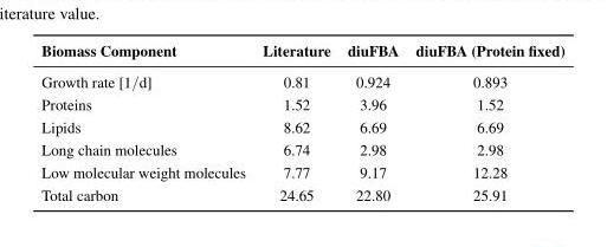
<table><thead><tr><td>Biomass Component</td><td>Literature</td><td>diuFBA</td><td>diuFBA (Protein fixed)</td></tr></thead><tbody><tr><td>Growth rate [1/d]</td><td>0.81</td><td>0.924</td><td>0.893</td></tr><tr><td>Proteins</td><td>1.52</td><td>3.96</td><td>1.52</td></tr><tr><td>Lipids</td><td>8.62</td><td>6.69</td><td>6.69</td></tr><tr><td>Long chain molecules</td><td>6.74</td><td>2.98</td><td>2.98</td></tr><tr><td>Low molecular weight molecules</td><td>7.77</td><td>9.17</td><td>12.28</td></tr><tr><td>Total carbon</td><td>24.65</td><td>22.80</td><td>25.91</td></tr></tbody></table>